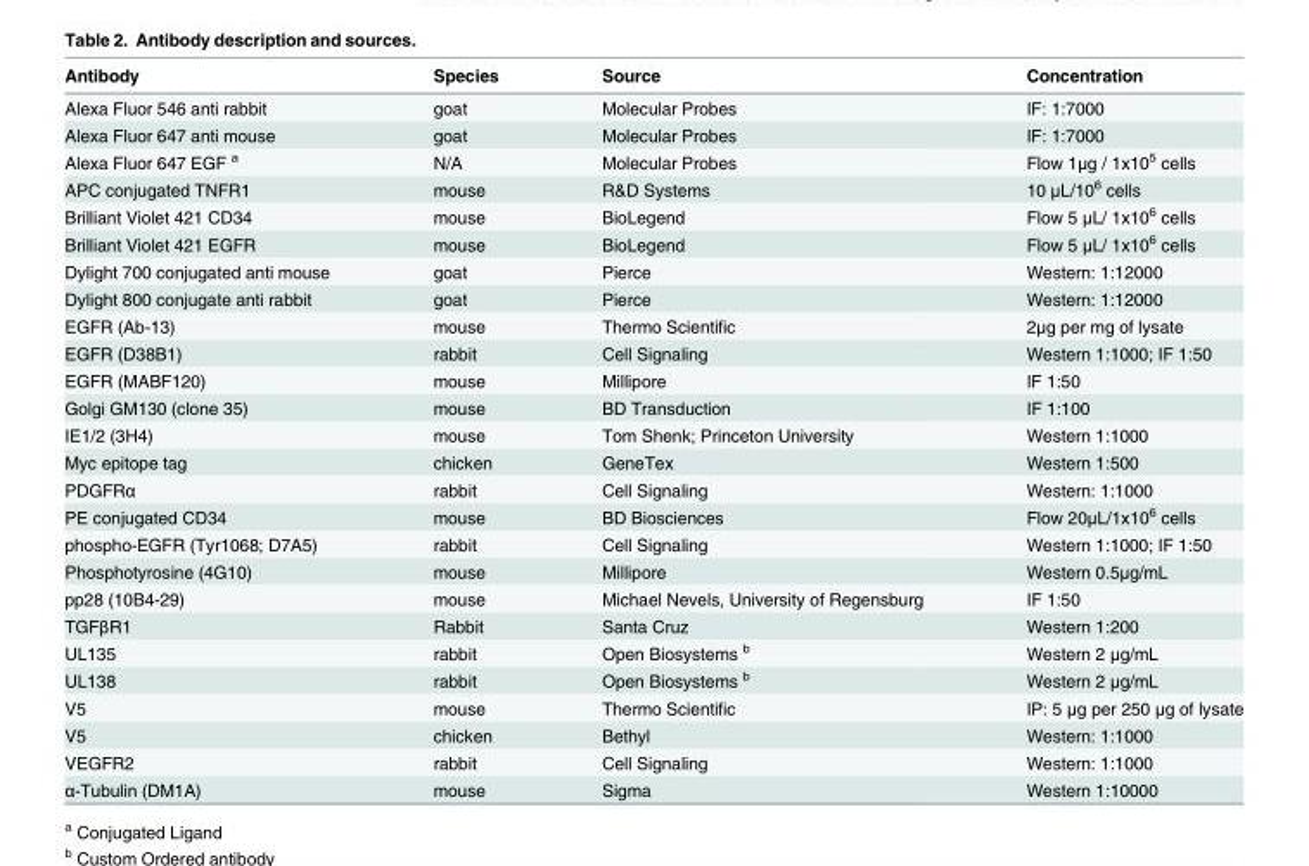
<table><thead><tr><td>Antibody</td><td>Species</td><td>Source</td><td>Concentration</td></tr></thead><tbody><tr><td>Alexa Fluor 546 anti rabbit</td><td>goat</td><td>Molecular Probes</td><td>IF: 1:7000</td></tr><tr><td>Alexa Fluor 647 anti mouse</td><td>goat</td><td>Molecular Probes</td><td>IF: 1:7000</td></tr><tr><td>Alexa Fluor 647 EGF <sup>a</sup></td><td>N/A</td><td>Molecular Probes</td><td>Flow 1μg / 1x10<sup>5</sup> cells</td></tr><tr><td>APC conjugated TNFR1</td><td>mouse</td><td>R&amp;D Systems</td><td>10 μL/10<sup>6</sup> cells</td></tr><tr><td>Brilliant Violet 421 CD34</td><td>mouse</td><td>BioLegend</td><td>Flow 5 μL/ 1x10<sup>6</sup> cells</td></tr><tr><td>Brilliant Violet 421 EGFR</td><td>mouse</td><td>BioLegend</td><td>Flow 5 μL/ 1x10<sup>6</sup> cells</td></tr><tr><td>Dylight 700 conjugated anti mouse</td><td>goat</td><td>Pierce</td><td>Western: 1:12000</td></tr><tr><td>Dylight 800 conjugate anti rabbit</td><td>goat</td><td>Pierce</td><td>Western: 1:12000</td></tr><tr><td>EGFR (Ab-13)</td><td>mouse</td><td>Thermo Scientific</td><td>2μg per mg of lysate</td></tr><tr><td>EGFR (D38B1)</td><td>rabbit</td><td>Cell Signaling</td><td>Western 1:1000; IF 1:50</td></tr><tr><td>EGFR (MABF120)</td><td>mouse</td><td>Millipore</td><td>IF 1:50</td></tr><tr><td>Golgi GM130 (clone 35)</td><td>mouse</td><td>BD Transduction</td><td>IF 1:100</td></tr><tr><td>IE1/2 (3H4)</td><td>mouse</td><td>Tom Shenk; Princeton University</td><td>Western 1:1000</td></tr><tr><td>Myc epitope tag</td><td>chicken</td><td>GeneTex</td><td>Western 1:500</td></tr><tr><td>PDGFRα</td><td>rabbit</td><td>Cell Signaling</td><td>Western: 1:1000</td></tr><tr><td>PE conjugated CD34</td><td>mouse</td><td>BD Biosciences</td><td>Flow 20μL/1x10<sup>6</sup> cells</td></tr><tr><td>phospho-EGFR (Tyr1068; D7A5)</td><td>rabbit</td><td>Cell Signaling</td><td>Western 1:1000; IF 1:50</td></tr><tr><td>Phosphotyrosine (4G10)</td><td>mouse</td><td>Millipore</td><td>Western 0.5μg/mL</td></tr><tr><td>pp28 (10B4-29)</td><td>mouse</td><td>Michael Nevels, University of Regensburg</td><td>IF 1:50</td></tr><tr><td>TGFβR1</td><td>Rabbit</td><td>Santa Cruz</td><td>Western 1:200</td></tr><tr><td>UL135</td><td>rabbit</td><td>Open Biosystems <sup>b</sup></td><td>Western 2 μg/mL</td></tr><tr><td>UL138</td><td>rabbit</td><td>Open Biosystems <sup>b</sup></td><td>Western 2 μg/mL</td></tr><tr><td>V5</td><td>mouse</td><td>Thermo Scientific</td><td>IP: 5 μg per 250 μg of lysate</td></tr><tr><td>V5</td><td>chicken</td><td>Bethyl</td><td>Western: 1:1000</td></tr><tr><td>VEGFR2</td><td>rabbit</td><td>Cell Signaling</td><td>Western: 1:1000</td></tr><tr><td>α-Tubulin (DM1A)</td><td>mouse</td><td>Sigma</td><td>Western 1:10000</td></tr></tbody></table>